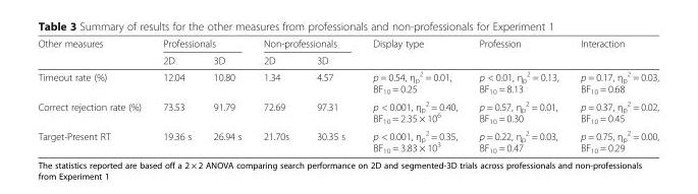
<table><thead><tr><td rowspan="2">Other measures</td><td colspan="2">Professionals</td><td colspan="2">Non-professionals</td><td rowspan="2">Display type</td><td rowspan="2">Profession</td><td rowspan="2">Interaction</td></tr><tr><td>2D</td><td>3D</td><td>2D</td><td>3D</td></tr></thead><tbody><tr><td>Timeout rate (%)</td><td>12.04</td><td>10.80</td><td>1.34</td><td>4.57</td><td>p = 0.54, η<sub>p</sub> <sup>2</sup> = 0.01, BF<sub>10</sub> = 0.25</td><td>p &lt; 0.01, η<sub>p</sub> <sup>2</sup> = 0.13, BF<sub>10</sub> = 8.13</td><td>p = 0.17, η<sub>p</sub> <sup>2</sup> = 0.03, BF<sub>10</sub> = 0.68</td></tr><tr><td>Correct rejection rate (%)</td><td>73.53</td><td>91.79</td><td>72.69</td><td>97.31</td><td>p &lt; 0.001, η<sub>p</sub> <sup>2</sup> = 0.40, BF<sub>10</sub> = 2.35 × 10<sup>6</sup></td><td>p = 0.57, η<sub>p</sub> <sup>2</sup> = 0.01, BF<sub>10</sub> = 0.30</td><td>p = 0.37, η<sub>p</sub> <sup>2</sup> = 0.02, BF<sub>10</sub> = 0.45</td></tr><tr><td>Target-Present RT</td><td>19.36 s</td><td>26.94 s</td><td>21.70s</td><td>30.35 s</td><td>p &lt; 0.001, η<sub>p</sub> <sup>2</sup> = 0.35, BF<sub>10</sub> = 3.83 × 10<sup>3</sup></td><td>p = 0.22, η<sub>p</sub> <sup>2</sup> = 0.03, BF<sub>10</sub> = 0.47</td><td>p = 0.75, η<sub>p</sub> <sup>2</sup> = 0.00, BF<sub>10</sub> = 0.29</td></tr></tbody></table>